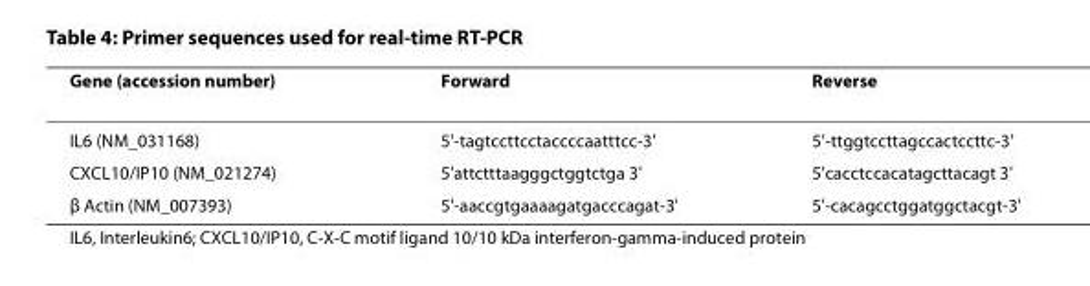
<table><thead><tr><td>Gene (accession number)</td><td>Forward</td><td>Reverse</td></tr></thead><tbody><tr><td>IL6 (NM_031168)</td><td>5&#x27;-tagtccttcctaccccaatttcc-3&#x27;</td><td>5&#x27;-ttggtccttagccactccttc-3&#x27;</td></tr><tr><td>CXCL10/IP10 (NM_021274)</td><td>5&#x27;attctttaagggctggtctga 3&#x27;</td><td>5&#x27;cacctccacatagcttacagt 3&#x27;</td></tr><tr><td>β Actin (NM_007393)</td><td>5&#x27;-aaccgtgaaaagatgacccagat-3&#x27;</td><td>5&#x27;-cacagcctggatggctacgt-3&#x27;</td></tr></tbody></table>